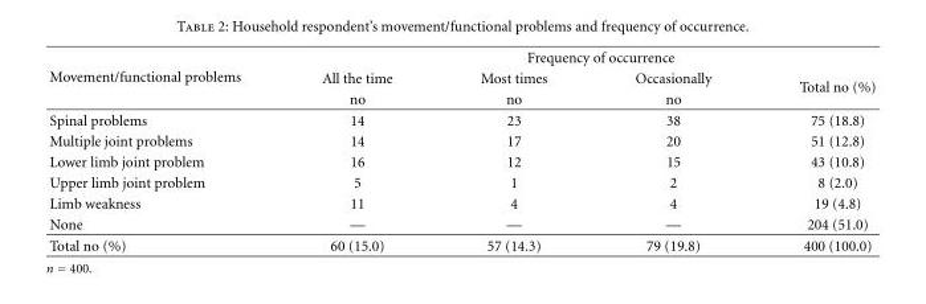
<table><thead><tr><td rowspan="3">Movement/functional problems</td><td colspan="4">Frequency of occurrence</td></tr><tr><td rowspan="2">All the time no</td><td rowspan="2">Most times no</td><td rowspan="2">Occasionally no</td><td rowspan="2">Total no (%)</td></tr><tr></tr></thead><tbody><tr><td>Spinal problems</td><td>14</td><td>23</td><td>38</td><td>75 (18.8)</td></tr><tr><td>Multiple joint problems</td><td>14</td><td>17</td><td>20</td><td>51 (12.8)</td></tr><tr><td>Lower limb joint problem</td><td>16</td><td>12</td><td>15</td><td>43 (10.8)</td></tr><tr><td>Upper limb joint problem</td><td>5</td><td>1</td><td>2</td><td>8 (2.0)</td></tr><tr><td>Limb weakness</td><td>11</td><td>4</td><td>4</td><td>19 (4.8)</td></tr><tr><td>None</td><td>—</td><td>—</td><td>—</td><td>204 (51.0)</td></tr><tr><td>Total no (%)</td><td>60 (15.0)</td><td>57 (14.3)</td><td>79 (19.8)</td><td>400 (100.0)</td></tr></tbody></table>